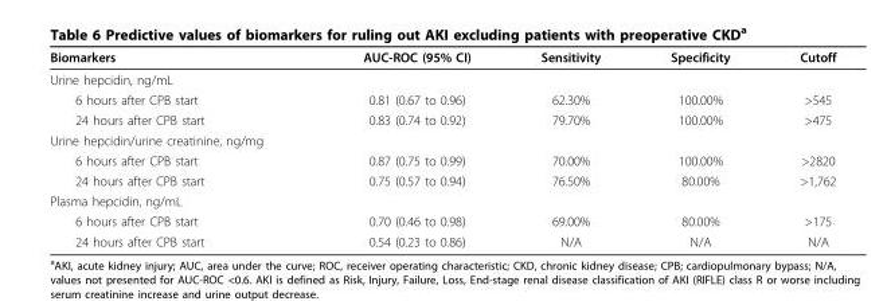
<table><thead><tr><td>Biomarkers</td><td>AUC-ROC (95% CI)</td><td>Sensitivity</td><td>Specificity</td><td>Cutoff</td></tr></thead><tbody><tr><td colspan="5">Urine hepcidin, ng/mL</td></tr><tr><td>6 hours after CPB start</td><td>0.81 (0.67 to 0.96)</td><td>62.30%</td><td>100.00%</td><td>&gt;545</td></tr><tr><td>24 hours after CPB start</td><td>0.83 (0.74 to 0.92)</td><td>79.70%</td><td>100.00%</td><td>&gt;475</td></tr><tr><td colspan="5">Urine hepcidin/urine creatinine, ng/mg</td></tr><tr><td>6 hours after CPB start</td><td>0.87 (0.75 to 0.99)</td><td>70.00%</td><td>100.00%</td><td>&gt;2820</td></tr><tr><td>24 hours after CPB start</td><td>0.75 (0.57 to 0.94)</td><td>76.50%</td><td>80.00%</td><td>&gt;1,762</td></tr><tr><td colspan="5">Plasma hepcidin, ng/mL</td></tr><tr><td>6 hours after CPB start</td><td>0.70 (0.46 to 0.98)</td><td>69.00%</td><td>80.00%</td><td>&gt;175</td></tr><tr><td>24 hours after CPB start</td><td>0.54 (0.23 to 0.86)</td><td>N/A</td><td>N/A</td><td>N/A</td></tr></tbody></table>